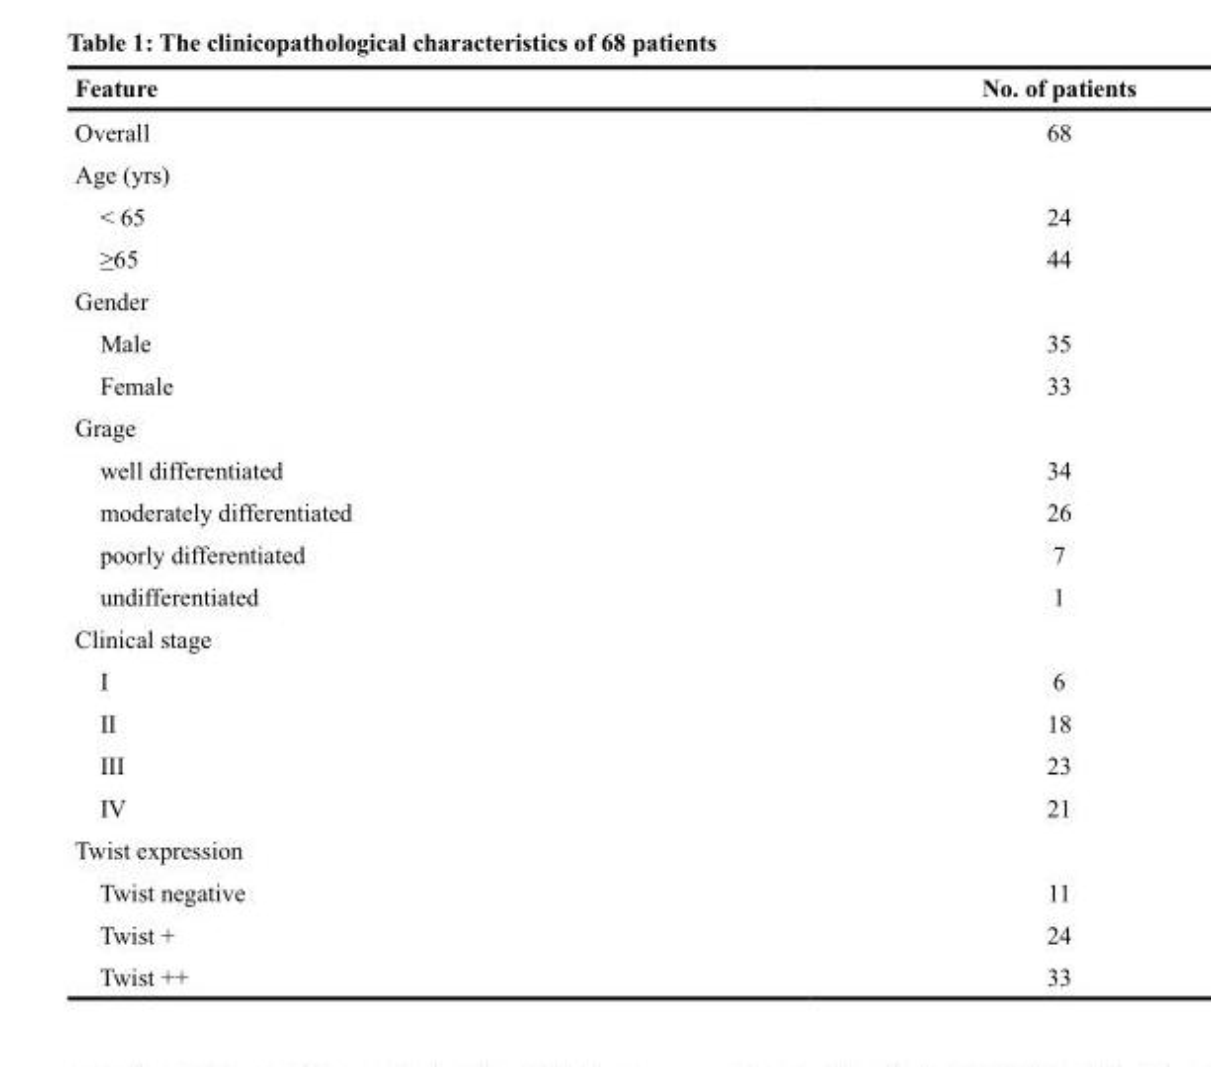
<table><thead><tr><td>Feature</td><td>No. of patients</td></tr></thead><tbody><tr><td>Overall</td><td>68</td></tr><tr><td colspan="2">Age (yrs)</td></tr><tr><td>&lt; 65</td><td>24</td></tr><tr><td>≥65</td><td>44</td></tr><tr><td colspan="2">Gender</td></tr><tr><td>Male</td><td>35</td></tr><tr><td>Female</td><td>33</td></tr><tr><td colspan="2">Grage</td></tr><tr><td>well differentiated</td><td>34</td></tr><tr><td>moderately differentiated</td><td>26</td></tr><tr><td>poorly differentiated</td><td>7</td></tr><tr><td>undifferentiated</td><td>1</td></tr><tr><td colspan="2">Clinical stage</td></tr><tr><td>I</td><td>6</td></tr><tr><td>II</td><td>18</td></tr><tr><td>III</td><td>23</td></tr><tr><td>IV</td><td>21</td></tr><tr><td colspan="2">Twist expression</td></tr><tr><td>Twist negative</td><td>11</td></tr><tr><td>Twist +</td><td>24</td></tr><tr><td>Twist ++</td><td>33</td></tr></tbody></table>